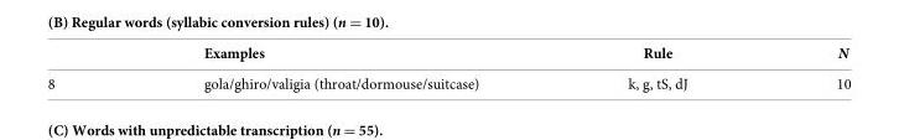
<table><thead><tr><td></td><td>Examples</td><td>Rule</td><td>N</td></tr></thead><tbody><tr><td>8</td><td>gola/ghiro/valigia (throat/dormouse/suitcase)</td><td>k, g, tS, dJ</td><td>10</td></tr></tbody></table>